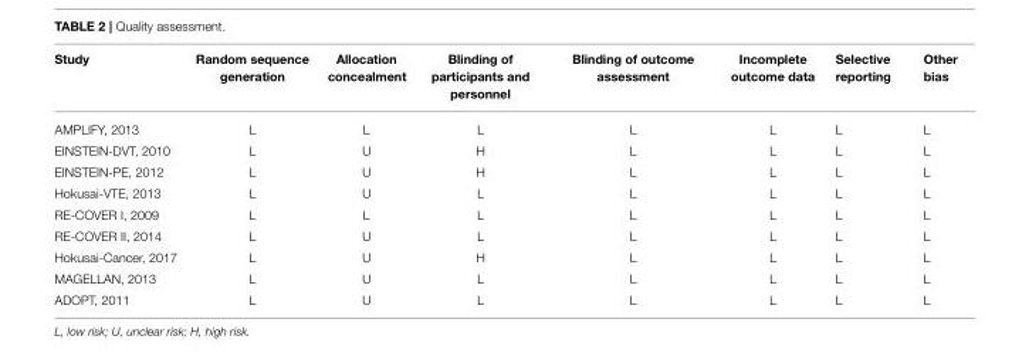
<table><thead><tr><td>Study</td><td>Random sequence generation</td><td>Allocation concealment</td><td>Blinding of participants and personnel</td><td>Blinding of outcome assessment</td><td>Incomplete outcome data</td><td>Selective reporting</td><td>Other bias</td></tr></thead><tbody><tr><td>AMPLIFY, 2013</td><td>L</td><td>L</td><td>L</td><td>L</td><td>L</td><td>L</td><td>L</td></tr><tr><td>EINSTEIN-DVT, 2010</td><td>L</td><td>U</td><td>H</td><td>L</td><td>L</td><td>L</td><td>L</td></tr><tr><td>EINSTEIN-PE, 2012</td><td>L</td><td>U</td><td>H</td><td>L</td><td>L</td><td>L</td><td>L</td></tr><tr><td>Hokusai-VTE, 2013</td><td>L</td><td>U</td><td>L</td><td>L</td><td>L</td><td>L</td><td>L</td></tr><tr><td>RE-COVER I, 2009</td><td>L</td><td>L</td><td>L</td><td>L</td><td>L</td><td>L</td><td>L</td></tr><tr><td>RE-COVER II, 2014</td><td>L</td><td>U</td><td>L</td><td>L</td><td>L</td><td>L</td><td>L</td></tr><tr><td>Hokusai-Cancer, 2017</td><td>L</td><td>U</td><td>H</td><td>L</td><td>L</td><td>L</td><td>L</td></tr><tr><td>MAGELLAN, 2013</td><td>L</td><td>U</td><td>L</td><td>L</td><td>L</td><td>L</td><td>L</td></tr><tr><td>ADOPT, 2011</td><td>L</td><td>U</td><td>L</td><td>L</td><td>L</td><td>L</td><td>L</td></tr></tbody></table>